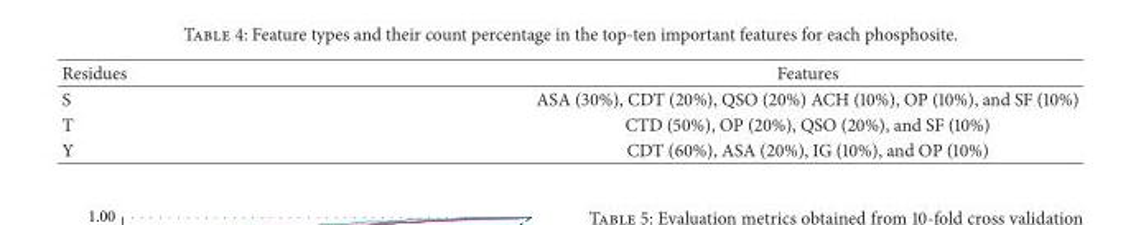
<table><thead><tr><td>Residues</td><td>Features</td></tr></thead><tbody><tr><td>S</td><td>ASA (30%), CDT (20%), QSO (20%) ACH (10%), OP (10%), and SF (10%)</td></tr><tr><td>T</td><td>CTD (50%), OP (20%), QSO (20%), and SF (10%)</td></tr><tr><td>Y</td><td>CDT (60%), ASA (20%), IG (10%), and OP (10%)</td></tr></tbody></table>